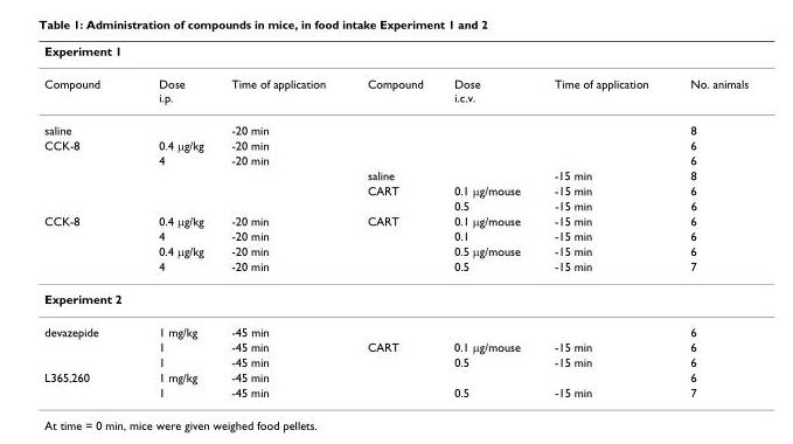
<table><thead><tr><td>Experiment 1</td><td></td><td></td><td></td><td></td><td></td><td></td></tr></thead><tbody><tr><td>Compound</td><td>Dose i.p.</td><td>Time of application</td><td>Compound</td><td>Dose i.c.v.</td><td>Time of application</td><td>No. animals</td></tr><tr><td>saline</td><td></td><td>-20 min</td><td></td><td></td><td></td><td>8</td></tr><tr><td rowspan="5">CCK-8</td><td>0.4 μg/kg</td><td>-20 min</td><td></td><td></td><td></td><td>6</td></tr><tr><td>4</td><td>-20 min</td><td></td><td></td><td></td><td>6</td></tr><tr><td></td><td></td><td>saline</td><td></td><td>-15 min</td><td>8</td></tr><tr><td></td><td></td><td>CART</td><td>0.1 μg/mouse</td><td>-15 min</td><td>6</td></tr><tr><td></td><td></td><td></td><td>0.5</td><td>-15 min</td><td>6</td></tr><tr><td rowspan="4">CCK-8</td><td>0.4 μg/kg</td><td>-20 min</td><td>CART</td><td>0.1 μg/mouse</td><td>-15 min</td><td>6</td></tr><tr><td>4</td><td>-20 min</td><td></td><td>0.1</td><td>-15 min</td><td>6</td></tr><tr><td>0.4 μg/kg</td><td>-20 min</td><td></td><td>0.5 μg/mouse</td><td>-15 min</td><td>6</td></tr><tr><td>4</td><td>-20 min</td><td></td><td>0.5</td><td>-15 min</td><td>7</td></tr><tr><td colspan="7">Experiment 2</td></tr><tr><td rowspan="3">devazepide</td><td>1 mg/kg</td><td>-45 min</td><td></td><td></td><td></td><td>6</td></tr><tr><td>1</td><td>-45 min</td><td>CART</td><td>0.1 μg/mouse</td><td>-15 min</td><td>6</td></tr><tr><td>1</td><td>-45 min</td><td></td><td>0.5</td><td>-15 min</td><td>6</td></tr><tr><td rowspan="2">L365,260</td><td>1 mg/kg</td><td>-45 min</td><td></td><td></td><td></td><td>6</td></tr><tr><td>1</td><td>-45 min</td><td></td><td>0.5</td><td>-15 min</td><td>7</td></tr></tbody></table>